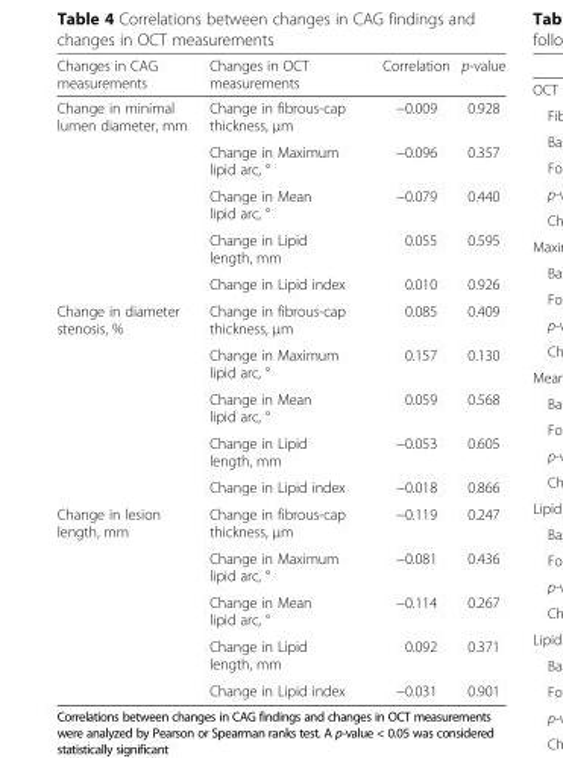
<table><thead><tr><td>Changes in CAG measurements</td><td>Changes in OCT measurements</td><td>Correlation</td><td>p-value</td></tr></thead><tbody><tr><td rowspan="5">Change in minimal lumen diameter, mm</td><td>Change in fibrous-cap thickness, μm</td><td>−0.009</td><td>0.928</td></tr><tr><td>Change in Maximum lipid arc, °</td><td>−0.096</td><td>0.357</td></tr><tr><td>Change in Mean lipid arc, °</td><td>−0.079</td><td>0.440</td></tr><tr><td>Change in Lipid length, mm</td><td>0.055</td><td>0.595</td></tr><tr><td>Change in Lipid index</td><td>0.010</td><td>0.926</td></tr><tr><td rowspan="5">Change in diameter stenosis, %</td><td>Change in fibrous-cap thickness, μm</td><td>0.085</td><td>0.409</td></tr><tr><td>Change in Maximum lipid arc, °</td><td>0.157</td><td>0.130</td></tr><tr><td>Change in Mean lipid arc, °</td><td>0.059</td><td>0.568</td></tr><tr><td>Change in Lipid length, mm</td><td>−0.053</td><td>0.605</td></tr><tr><td>Change in Lipid index</td><td>−0.018</td><td>0.866</td></tr><tr><td rowspan="5">Change in lesion length, mm</td><td>Change in fibrous-cap thickness, μm</td><td>−0.119</td><td>0.247</td></tr><tr><td>Change in Maximum lipid arc, °</td><td>−0.081</td><td>0.436</td></tr><tr><td>Change in Mean lipid arc, °</td><td>−0.114</td><td>0.267</td></tr><tr><td>Change in Lipid length, mm</td><td>0.092</td><td>0.371</td></tr><tr><td>Change in Lipid index</td><td>−0.031</td><td>0.901</td></tr></tbody></table>